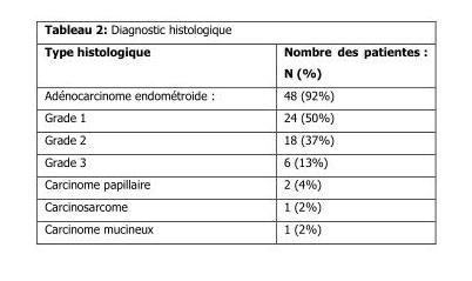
<table><thead><tr><td>Type histologique</td><td>Nombre des patientes : N (%)</td></tr></thead><tbody><tr><td>Adénocarcinome endométroide :</td><td>48 (92%)</td></tr><tr><td>Grade 1</td><td>24 (50%)</td></tr><tr><td>Grade 2</td><td>18 (37%)</td></tr><tr><td>Grade 3</td><td>6 (13%)</td></tr><tr><td>Carcinome papillaire</td><td>2 (4%)</td></tr><tr><td>Carcinosarcome</td><td>1 (2%)</td></tr><tr><td>Carcinome mucineux</td><td>1 (2%)</td></tr></tbody></table>